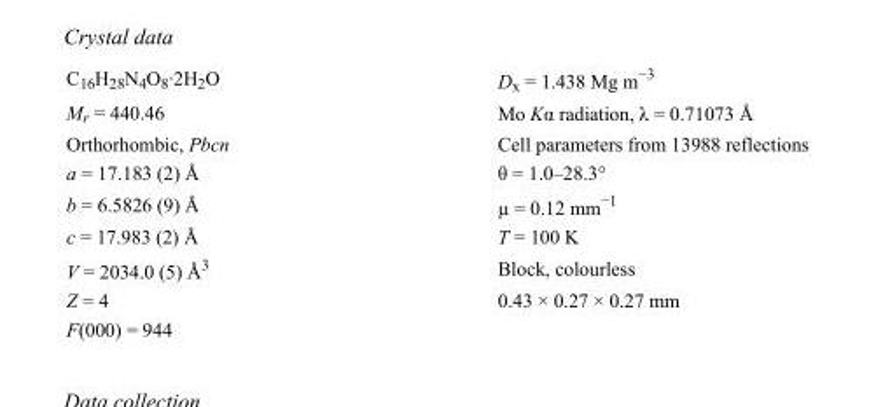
<table><tbody><tr><td>C<sub>16</sub>H<sub>28</sub>N<sub>4</sub>O<sub>8</sub>·2H<sub>2</sub>O</td><td>D<sub>x</sub> = 1.438 Mg m<sup>−3</sup></td></tr><tr><td>M<sub>r</sub> = 440.46</td><td>Mo Kα radiation, λ = 0.71073 Å</td></tr><tr><td>Orthorhombic, Pbcn</td><td>Cell parameters from 13988 reflections</td></tr><tr><td>a = 17.183 (2) Å</td><td>θ = 1.0–28.3°</td></tr><tr><td>b = 6.5826 (9) Å</td><td>µ = 0.12 mm<sup>−1</sup></td></tr><tr><td>c = 17.983 (2) Å</td><td>T = 100 K</td></tr><tr><td>V = 2034.0 (5) Å<sup>3</sup></td><td>Block, colourless</td></tr><tr><td>Z = 4</td><td>0.43 × 0.27 × 0.27 mm</td></tr><tr><td>F(000) = 944</td><td></td></tr></tbody></table>